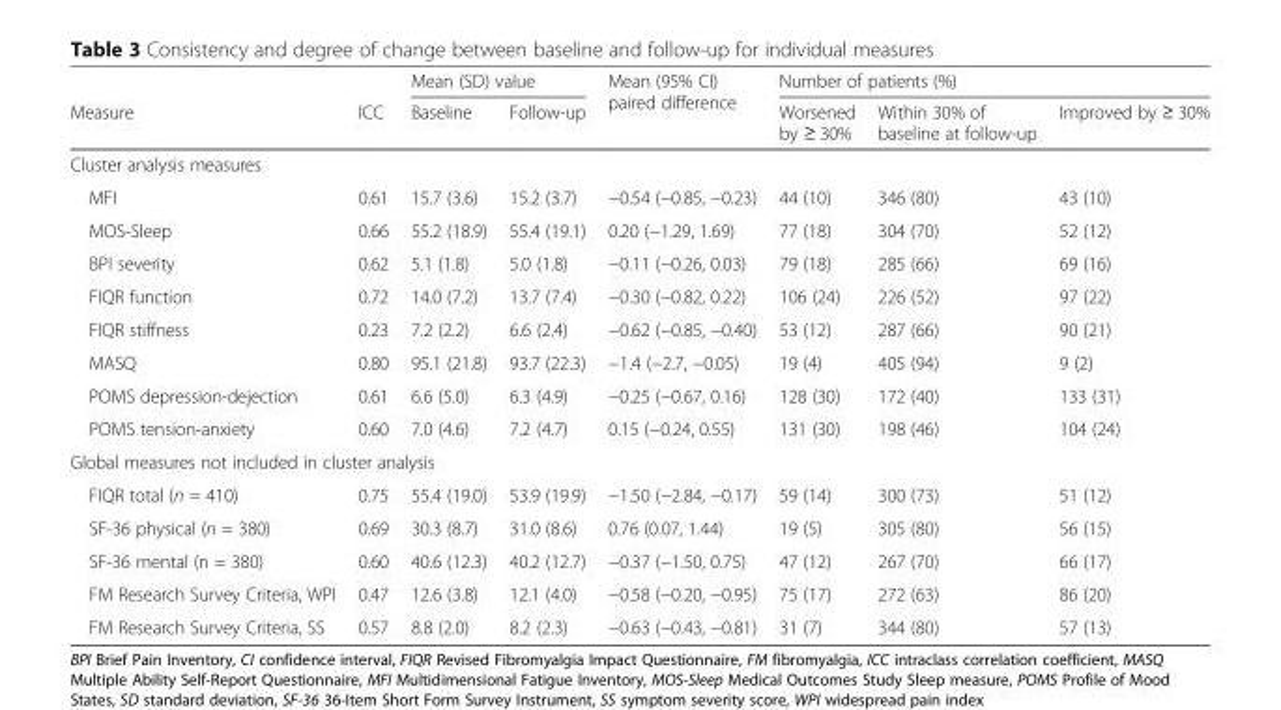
<table><thead><tr><td rowspan="2">Measure</td><td rowspan="2">ICC</td><td colspan="2">Mean (SD) value</td><td rowspan="2">Mean (95% CI) paired difference</td><td colspan="3">Number of patients (%)</td></tr><tr><td>Baseline</td><td>Follow-up</td><td>Worsened by ≥ 30%</td><td>Within 30% of baseline at follow-up</td><td>Improved by ≥ 30%</td></tr></thead><tbody><tr><td colspan="8">Cluster analysis measures</td></tr><tr><td>MFI</td><td>0.61</td><td>15.7 (3.6)</td><td>15.2 (3.7)</td><td>−0.54 (−0.85, −0.23)</td><td>44 (10)</td><td>346 (80)</td><td>43 (10)</td></tr><tr><td>MOS-Sleep</td><td>0.66</td><td>55.2 (18.9)</td><td>55.4 (19.1)</td><td>0.20 (−1.29, 1.69)</td><td>77 (18)</td><td>304 (70)</td><td>52 (12)</td></tr><tr><td>BPI severity</td><td>0.62</td><td>5.1 (1.8)</td><td>5.0 (1.8)</td><td>−0.11 (−0.26, 0.03)</td><td>79 (18)</td><td>285 (66)</td><td>69 (16)</td></tr><tr><td>FIQR function</td><td>0.72</td><td>14.0 (7.2)</td><td>13.7 (7.4)</td><td>−0.30 (−0.82, 0.22)</td><td>106 (24)</td><td>226 (52)</td><td>97 (22)</td></tr><tr><td>FIQR stiffness</td><td>0.23</td><td>7.2 (2.2)</td><td>6.6 (2.4)</td><td>−0.62 (−0.85, −0.40)</td><td>53 (12)</td><td>287 (66)</td><td>90 (21)</td></tr><tr><td>MASQ</td><td>0.80</td><td>95.1 (21.8)</td><td>93.7 (22.3)</td><td>−1.4 (−2.7, −0.05)</td><td>19 (4)</td><td>405 (94)</td><td>9 (2)</td></tr><tr><td>POMS depression-dejection</td><td>0.61</td><td>6.6 (5.0)</td><td>6.3 (4.9)</td><td>−0.25 (−0.67, 0.16)</td><td>128 (30)</td><td>172 (40)</td><td>133 (31)</td></tr><tr><td>POMS tension-anxiety</td><td>0.60</td><td>7.0 (4.6)</td><td>7.2 (4.7)</td><td>0.15 (−0.24, 0.55)</td><td>131 (30)</td><td>198 (46)</td><td>104 (24)</td></tr><tr><td colspan="8">Global measures not included in cluster analysis</td></tr><tr><td>FIQR total (n = 410)</td><td>0.75</td><td>55.4 (19.0)</td><td>53.9 (19.9)</td><td>−1.50 (−2.84, −0.17)</td><td>59 (14)</td><td>300 (73)</td><td>51 (12)</td></tr><tr><td>SF-36 physical (n = 380)</td><td>0.69</td><td>30.3 (8.7)</td><td>31.0 (8.6)</td><td>0.76 (0.07, 1.44)</td><td>19 (5)</td><td>305 (80)</td><td>56 (15)</td></tr><tr><td>SF-36 mental (n = 380)</td><td>0.60</td><td>40.6 (12.3)</td><td>40.2 (12.7)</td><td>−0.37 (−1.50, 0.75)</td><td>47 (12)</td><td>267 (70)</td><td>66 (17)</td></tr><tr><td>FM Research Survey Criteria, WPI</td><td>0.47</td><td>12.6 (3.8)</td><td>12.1 (4.0)</td><td>−0.58 (−0.20, −0.95)</td><td>75 (17)</td><td>272 (63)</td><td>86 (20)</td></tr><tr><td>FM Research Survey Criteria, SS</td><td>0.57</td><td>8.8 (2.0)</td><td>8.2 (2.3)</td><td>−0.63 (−0.43, −0.81)</td><td>31 (7)</td><td>344 (80)</td><td>57 (13)</td></tr></tbody></table>